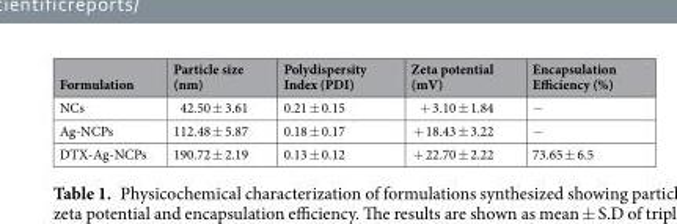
<table><thead><tr><td>Formulation</td><td>Particle size (nm)</td><td>Polydispersity Index (PDI)</td><td>Zeta potential (mV)</td><td>Encapsulation Efficiency (%)</td></tr></thead><tbody><tr><td>NCs</td><td>42.50 ± 3.61</td><td>0.21 ± 0.15</td><td>+ 3.10 ± 1.84</td><td>−</td></tr><tr><td>Ag-NCPs</td><td>112.48 ± 5.87</td><td>0.18 ± 0.17</td><td>+ 18.43 ± 3.22</td><td>−</td></tr><tr><td>DTX-Ag-NCPs</td><td>190.72 ± 2.19</td><td>0.13 ± 0.12</td><td>+ 22.70 ± 2.22</td><td>73.65 ± 6.5</td></tr></tbody></table>